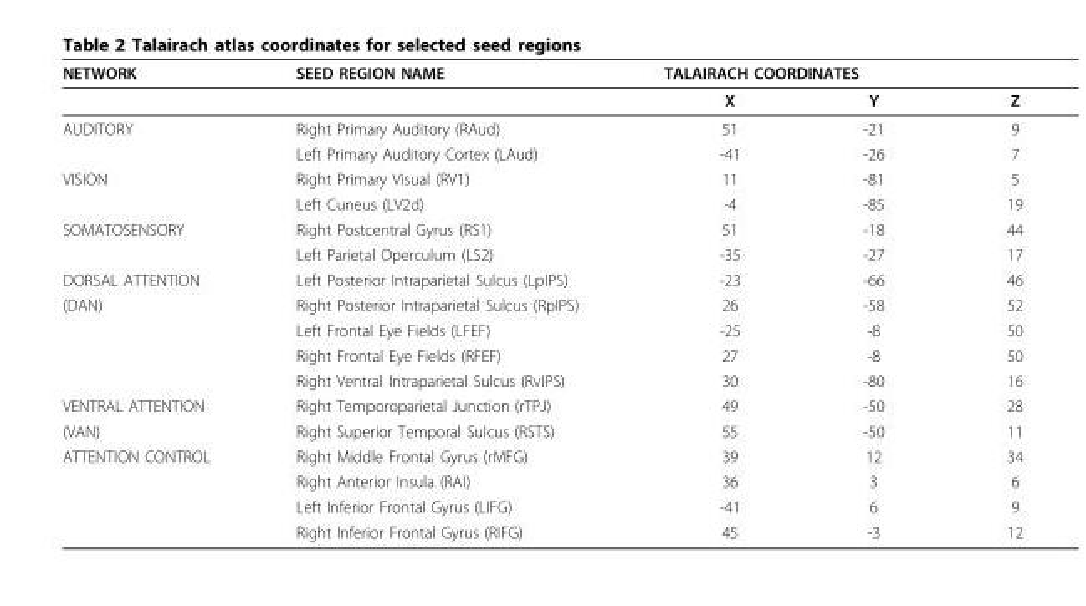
<table><thead><tr><td rowspan="2">NETWORK</td><td rowspan="2">SEED REGION NAME</td><td colspan="3">TALAIRACH COORDINATES</td></tr><tr><td>X</td><td>Y</td><td>Z</td></tr></thead><tbody><tr><td rowspan="2">AUDITORY</td><td>Right Primary Auditory (RAud)</td><td>51</td><td>-21</td><td>9</td></tr><tr><td>Left Primary Auditory Cortex (LAud)</td><td>-41</td><td>-26</td><td>7</td></tr><tr><td rowspan="2">VISION</td><td>Right Primary Visual (RV1)</td><td>11</td><td>-81</td><td>5</td></tr><tr><td>Left Cuneus (LV2d)</td><td>-4</td><td>-85</td><td>19</td></tr><tr><td rowspan="2">SOMATOSENSORY</td><td>Right Postcentral Gyrus (RS1)</td><td>51</td><td>-18</td><td>44</td></tr><tr><td>Left Parietal Operculum (LS2)</td><td>-35</td><td>-27</td><td>17</td></tr><tr><td>DORSAL ATTENTION</td><td>Left Posterior Intraparietal Sulcus (LpIPS)</td><td>-23</td><td>-66</td><td>46</td></tr><tr><td rowspan="4">(DAN)</td><td>Right Posterior Intraparietal Sulcus (RpIPS)</td><td>26</td><td>-58</td><td>52</td></tr><tr><td>Left Frontal Eye Fields (LFEF)</td><td>-25</td><td>-8</td><td>50</td></tr><tr><td>Right Frontal Eye Fields (RFEF)</td><td>27</td><td>-8</td><td>50</td></tr><tr><td>Right Ventral Intraparietal Sulcus (RvIPS)</td><td>30</td><td>-80</td><td>16</td></tr><tr><td>VENTRAL ATTENTION</td><td>Right Temporoparietal Junction (rTPJ)</td><td>49</td><td>-50</td><td>28</td></tr><tr><td>(VAN)</td><td>Right Superior Temporal Sulcus (RSTS)</td><td>55</td><td>-50</td><td>11</td></tr><tr><td rowspan="4">ATTENTION CONTROL</td><td>Right Middle Frontal Gyrus (rMFG)</td><td>39</td><td>12</td><td>34</td></tr><tr><td>Right Anterior Insula (RAI)</td><td>36</td><td>3</td><td>6</td></tr><tr><td>Left Inferior Frontal Gyrus (LIFG)</td><td>-41</td><td>6</td><td>9</td></tr><tr><td>Right Inferior Frontal Gyrus (RIFG)</td><td>45</td><td>-3</td><td>12</td></tr></tbody></table>